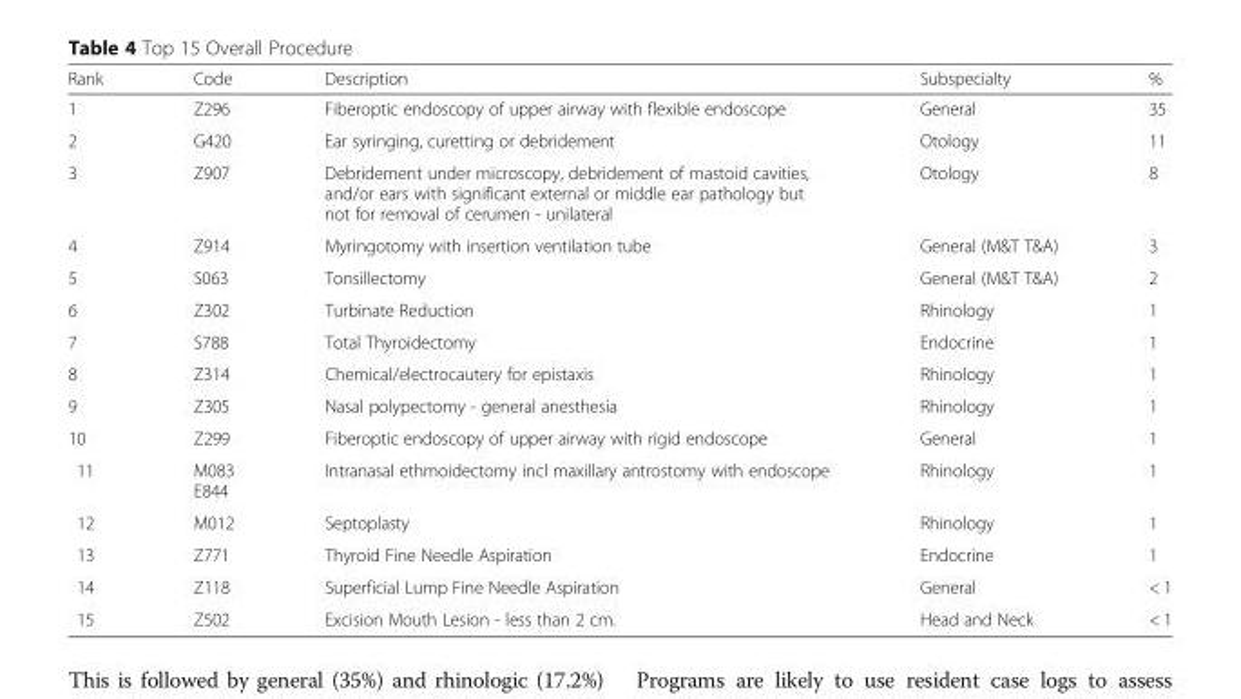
<table><thead><tr><td>Rank</td><td>Code</td><td>Description</td><td>Subspecialty</td><td>%</td></tr></thead><tbody><tr><td>1</td><td>Z296</td><td>Fiberoptic endoscopy of upper airway with flexible endoscope</td><td>General</td><td>35</td></tr><tr><td>2</td><td>G420</td><td>Ear syringing, curetting or debridement</td><td>Otology</td><td>11</td></tr><tr><td>3</td><td>Z907</td><td>Debridement under microscopy, debridement of mastoid cavities, and/or ears with significant external or middle ear pathology but not for removal of cerumen - unilateral</td><td>Otology</td><td>8</td></tr><tr><td>4</td><td>Z914</td><td>Myringotomy with insertion ventilation tube</td><td>General (M&amp;T T&amp;A)</td><td>3</td></tr><tr><td>5</td><td>S063</td><td>Tonsillectomy</td><td>General (M&amp;T T&amp;A)</td><td>2</td></tr><tr><td>6</td><td>Z302</td><td>Turbinate Reduction</td><td>Rhinology</td><td>1</td></tr><tr><td>7</td><td>S788</td><td>Total Thyroidectomy</td><td>Endocrine</td><td>1</td></tr><tr><td>8</td><td>Z314</td><td>Chemical/electrocautery for epistaxis</td><td>Rhinology</td><td>1</td></tr><tr><td>9</td><td>Z305</td><td>Nasal polypectomy - general anesthesia</td><td>Rhinology</td><td>1</td></tr><tr><td>10</td><td>Z299</td><td>Fiberoptic endoscopy of upper airway with rigid endoscope</td><td>General</td><td>1</td></tr><tr><td>11</td><td>M083 E844</td><td>Intranasal ethmoidectomy incl maxillary antrostomy with endoscope</td><td>Rhinology</td><td>1</td></tr><tr><td>12</td><td>M012</td><td>Septoplasty</td><td>Rhinology</td><td>1</td></tr><tr><td>13</td><td>Z771</td><td>Thyroid Fine Needle Aspiration</td><td>Endocrine</td><td>1</td></tr><tr><td>14</td><td>Z118</td><td>Superficial Lump Fine Needle Aspiration</td><td>General</td><td>&lt; 1</td></tr><tr><td>15</td><td>Z502</td><td>Excision Mouth Lesion - less than 2 cm.</td><td>Head and Neck</td><td>&lt; 1</td></tr></tbody></table>